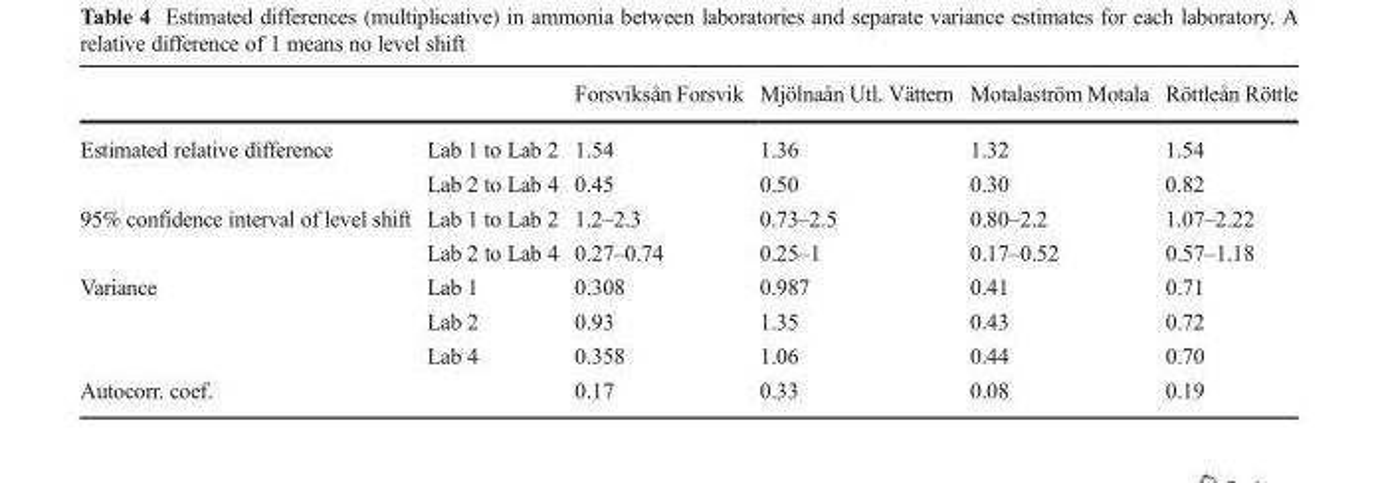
<table><thead><tr><td></td><td></td><td>Forsviksån Forsvik</td><td>Mjölnaån Utl. Vättern</td><td>Motalaström Motala</td><td>Röttleån Röttle</td></tr></thead><tbody><tr><td rowspan="2">Estimated relative difference</td><td>Lab 1 to Lab 2</td><td>1.54</td><td>1.36</td><td>1.32</td><td>1.54</td></tr><tr><td>Lab 2 to Lab 4</td><td>0.45</td><td>0.50</td><td>0.30</td><td>0.82</td></tr><tr><td rowspan="2">95% confidence interval of level shift</td><td>Lab 1 to Lab 2</td><td>1.2–2.3</td><td>0.73–2.5</td><td>0.80–2.2</td><td>1.07–2.22</td></tr><tr><td>Lab 2 to Lab 4</td><td>0.27–0.74</td><td>0.25–1</td><td>0.17–0.52</td><td>0.57–1.18</td></tr><tr><td rowspan="3">Variance</td><td>Lab 1</td><td>0.308</td><td>0.987</td><td>0.41</td><td>0.71</td></tr><tr><td>Lab 2</td><td>0.93</td><td>1.35</td><td>0.43</td><td>0.72</td></tr><tr><td>Lab 4</td><td>0.358</td><td>1.06</td><td>0.44</td><td>0.70</td></tr><tr><td>Autocorr. coef.</td><td></td><td>0.17</td><td>0.33</td><td>0.08</td><td>0.19</td></tr></tbody></table>